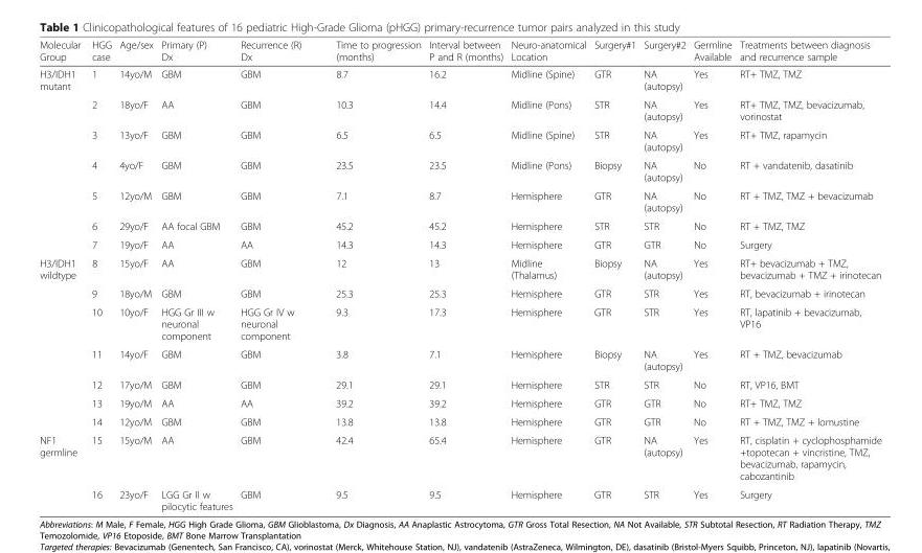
<table><thead><tr><td>Molecular Group</td><td>HGG case</td><td>Age/sex</td><td>Primary (P) Dx</td><td>Recurrence (R) Dx</td><td>Time to progression (months)</td><td>Interval between P and R (months)</td><td>Neuro-anatomical Location</td><td>Surgery#1</td><td>Surgery#2</td><td>Germline Available</td><td>Treatments between diagnosis and recurrence sample</td></tr></thead><tbody><tr><td rowspan="7">H3/IDH1 mutant</td><td>1</td><td>14yo/M</td><td>GBM</td><td>GBM</td><td>8.7</td><td>16.2</td><td>Midline (Spine)</td><td>GTR</td><td>NA (autopsy)</td><td>Yes</td><td>RT+ TMZ, TMZ</td></tr><tr><td>2</td><td>18yo/F</td><td>AA</td><td>GBM</td><td>10.3</td><td>14.4</td><td>Midline (Pons)</td><td>STR</td><td>NA (autopsy)</td><td>Yes</td><td>RT+ TMZ, TMZ, bevacizumab, vorinostat</td></tr><tr><td>3</td><td>13yo/F</td><td>GBM</td><td>GBM</td><td>6.5</td><td>6.5</td><td>Midline (Spine)</td><td>STR</td><td>NA (autopsy)</td><td>Yes</td><td>RT+ TMZ, rapamycin</td></tr><tr><td>4</td><td>4yo/F</td><td>GBM</td><td>GBM</td><td>23.5</td><td>23.5</td><td>Midline (Pons)</td><td>Biopsy</td><td>NA (autopsy)</td><td>No</td><td>RT + vandatenib, dasatinib</td></tr><tr><td>5</td><td>12yo/M</td><td>GBM</td><td>GBM</td><td>7.1</td><td>8.7</td><td>Hemisphere</td><td>GTR</td><td>NA (autopsy)</td><td>No</td><td>RT + TMZ, TMZ + bevacizumab</td></tr><tr><td>6</td><td>29yo/F</td><td>AA focal GBM</td><td>GBM</td><td>45.2</td><td>45.2</td><td>Hemisphere</td><td>STR</td><td>STR</td><td>No</td><td>RT + TMZ, TMZ</td></tr><tr><td>7</td><td>19yo/F</td><td>AA</td><td>AA</td><td>14.3</td><td>14.3</td><td>Hemisphere</td><td>GTR</td><td>GTR</td><td>No</td><td>Surgery</td></tr><tr><td rowspan="7">H3/IDH1 wildtype</td><td>8</td><td>15yo/F</td><td>AA</td><td>GBM</td><td>12</td><td>13</td><td>Midline (Thalamus)</td><td>Biopsy</td><td>NA (autopsy)</td><td>Yes</td><td>RT+ bevacizumab + TMZ, bevacizumab + TMZ + irinotecan</td></tr><tr><td>9</td><td>18yo/M</td><td>GBM</td><td>GBM</td><td>25.3</td><td>25.3</td><td>Hemisphere</td><td>GTR</td><td>STR</td><td>Yes</td><td>RT, bevacizumab + irinotecan</td></tr><tr><td>10</td><td>10yo/F</td><td>HGG Gr III w neuronal component</td><td>HGG Gr IV w neuronal component</td><td>9.3</td><td>17.3</td><td>Hemisphere</td><td>GTR</td><td>STR</td><td>Yes</td><td>RT, lapatinib + bevacizumab, VP16</td></tr><tr><td>11</td><td>14yo/F</td><td>GBM</td><td>GBM</td><td>3.8</td><td>7.1</td><td>Hemisphere</td><td>Biopsy</td><td>NA (autopsy)</td><td>Yes</td><td>RT + TMZ, bevacizumab</td></tr><tr><td>12</td><td>17yo/M</td><td>GBM</td><td>GBM</td><td>29.1</td><td>29.1</td><td>Hemisphere</td><td>STR</td><td>STR</td><td>No</td><td>RT, VP16, BMT</td></tr><tr><td>13</td><td>19yo/M</td><td>AA</td><td>AA</td><td>39.2</td><td>39.2</td><td>Hemisphere</td><td>GTR</td><td>GTR</td><td>No</td><td>RT+ TMZ, TMZ</td></tr><tr><td>14</td><td>12yo/M</td><td>GBM</td><td>GBM</td><td>13.8</td><td>13.8</td><td>Hemisphere</td><td>GTR</td><td>GTR</td><td>No</td><td>RT + TMZ, TMZ + lomustine</td></tr><tr><td rowspan="2">NF1 germline</td><td>15</td><td>15yo/M</td><td>AA</td><td>GBM</td><td>42.4</td><td>65.4</td><td>Hemisphere</td><td>GTR</td><td>NA (autopsy)</td><td>Yes</td><td>RT, cisplatin + cyclophosphamide +topotecan + vincristine, TMZ, bevacizumab, rapamycin, cabozantinib</td></tr><tr><td>16</td><td>23yo/F</td><td>LGG Gr II w pilocytic features</td><td>GBM</td><td>9.5</td><td>9.5</td><td>Hemisphere</td><td>GTR</td><td>STR</td><td>Yes</td><td>Surgery</td></tr></tbody></table>